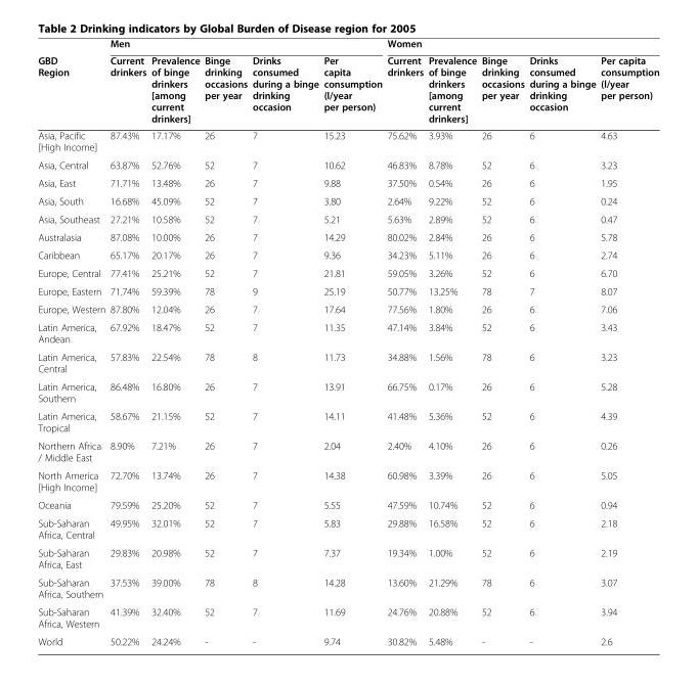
<table><thead><tr><td rowspan="2">GBD Region</td><td colspan="5">Men</td><td colspan="5">Women</td></tr><tr><td>Current drinkers</td><td>Prevalence of binge drinkers [among current drinkers]</td><td>Binge drinking occasions per year</td><td>Drinks consumed during a binge drinking occasion</td><td>Per capita consumption (l/year per person)</td><td>Current drinkers</td><td>Prevalence of binge drinkers [among current drinkers]</td><td>Binge drinking occasions per year</td><td>Drinks consumed during a binge drinking occasion</td><td>Per capita consumption (l/year per person)</td></tr></thead><tbody><tr><td>Asia, Pacific [High Income]</td><td>87.43%</td><td>17.17%</td><td>26</td><td>7</td><td>15.23</td><td>75.62%</td><td>3.93%</td><td>26</td><td>6</td><td>4.63</td></tr><tr><td>Asia, Central</td><td>63.87%</td><td>52.76%</td><td>52</td><td>7</td><td>10.62</td><td>46.83%</td><td>8.78%</td><td>52</td><td>6</td><td>3.23</td></tr><tr><td>Asia, East</td><td>71.71%</td><td>13.48%</td><td>26</td><td>7</td><td>9.88</td><td>37.50%</td><td>0.54%</td><td>26</td><td>6</td><td>1.95</td></tr><tr><td>Asia, South</td><td>16.68%</td><td>45.09%</td><td>52</td><td>7</td><td>3.80</td><td>2.64%</td><td>9.22%</td><td>52</td><td>6</td><td>0.24</td></tr><tr><td>Asia, Southeast</td><td>27.21%</td><td>10.58%</td><td>52</td><td>7</td><td>5.21</td><td>5.63%</td><td>2.89%</td><td>52</td><td>6</td><td>0.47</td></tr><tr><td>Australasia</td><td>87.08%</td><td>10.00%</td><td>26</td><td>7</td><td>14.29</td><td>80.02%</td><td>2.84%</td><td>26</td><td>6</td><td>5.78</td></tr><tr><td>Caribbean</td><td>65.17%</td><td>20.17%</td><td>26</td><td>7</td><td>9.36</td><td>34.23%</td><td>5.11%</td><td>26</td><td>6</td><td>2.74</td></tr><tr><td>Europe, Central</td><td>77.41%</td><td>25.21%</td><td>52</td><td>7</td><td>21.81</td><td>59.05%</td><td>3.26%</td><td>52</td><td>6</td><td>6.70</td></tr><tr><td>Europe, Eastern</td><td>71.74%</td><td>59.39%</td><td>78</td><td>9</td><td>25.19</td><td>50.77%</td><td>13.25%</td><td>78</td><td>7</td><td>8.07</td></tr><tr><td>Europe, Western</td><td>87.80%</td><td>12.04%</td><td>26</td><td>7</td><td>17.64</td><td>77.56%</td><td>1.80%</td><td>26</td><td>6</td><td>7.06</td></tr><tr><td>Latin America, Andean</td><td>67.92%</td><td>18.47%</td><td>52</td><td>7</td><td>11.35</td><td>47.14%</td><td>3.84%</td><td>52</td><td>6</td><td>3.43</td></tr><tr><td>Latin America, Central</td><td>57.83%</td><td>22.54%</td><td>78</td><td>8</td><td>11.73</td><td>34.88%</td><td>1.56%</td><td>78</td><td>6</td><td>3.23</td></tr><tr><td>Latin America, Southern</td><td>86.48%</td><td>16.80%</td><td>26</td><td>7</td><td>13.91</td><td>66.75%</td><td>0.17%</td><td>26</td><td>6</td><td>5.28</td></tr><tr><td>Latin America, Tropical</td><td>58.67%</td><td>21.15%</td><td>52</td><td>7</td><td>14.11</td><td>41.48%</td><td>5.36%</td><td>52</td><td>6</td><td>4.39</td></tr><tr><td>Northern Africa / Middle East</td><td>8.90%</td><td>7.21%</td><td>26</td><td>7</td><td>2.04</td><td>2.40%</td><td>4.10%</td><td>26</td><td>6</td><td>0.26</td></tr><tr><td>North America [High Income]</td><td>72.70%</td><td>13.74%</td><td>26</td><td>7</td><td>14.38</td><td>60.98%</td><td>3.39%</td><td>26</td><td>6</td><td>5.05</td></tr><tr><td>Oceania</td><td>79.59%</td><td>25.20%</td><td>52</td><td>7</td><td>5.55</td><td>47.59%</td><td>10.74%</td><td>52</td><td>6</td><td>0.94</td></tr><tr><td>Sub-Saharan Africa, Central</td><td>49.95%</td><td>32.01%</td><td>52</td><td>7</td><td>5.83</td><td>29.88%</td><td>16.58%</td><td>52</td><td>6</td><td>2.18</td></tr><tr><td>Sub-Saharan Africa, East</td><td>29.83%</td><td>20.98%</td><td>52</td><td>7</td><td>7.37</td><td>19.34%</td><td>1.00%</td><td>52</td><td>6</td><td>2.19</td></tr><tr><td>Sub-Saharan Africa, Southern</td><td>37.53%</td><td>39.00%</td><td>78</td><td>8</td><td>14.28</td><td>13.60%</td><td>21.29%</td><td>78</td><td>6</td><td>3.07</td></tr><tr><td>Sub-Saharan Africa, Western</td><td>41.39%</td><td>32.40%</td><td>52</td><td>7</td><td>11.69</td><td>24.76%</td><td>20.88%</td><td>52</td><td>6</td><td>3.94</td></tr><tr><td>World</td><td>50.22%</td><td>24.24%</td><td>-</td><td>-</td><td>9.74</td><td>30.82%</td><td>5.48%</td><td>-</td><td>-</td><td>2.6</td></tr></tbody></table>